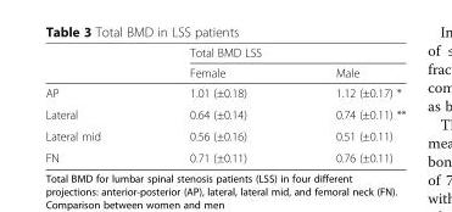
<table><thead><tr><td rowspan="2"></td><td colspan="2">Total BMD LSS</td></tr><tr><td>Female</td><td>Male</td></tr></thead><tbody><tr><td>AP</td><td>1.01 (±0.18)</td><td>1.12 (±0.17) *</td></tr><tr><td>Lateral</td><td>0.64 (±0.14)</td><td>0.74 (±0.11) **</td></tr><tr><td>Lateral mid</td><td>0.56 (±0.16)</td><td>0.51 (±0.11)</td></tr><tr><td>FN</td><td>0.71 (±0.11)</td><td>0.76 (±0.11)</td></tr></tbody></table>